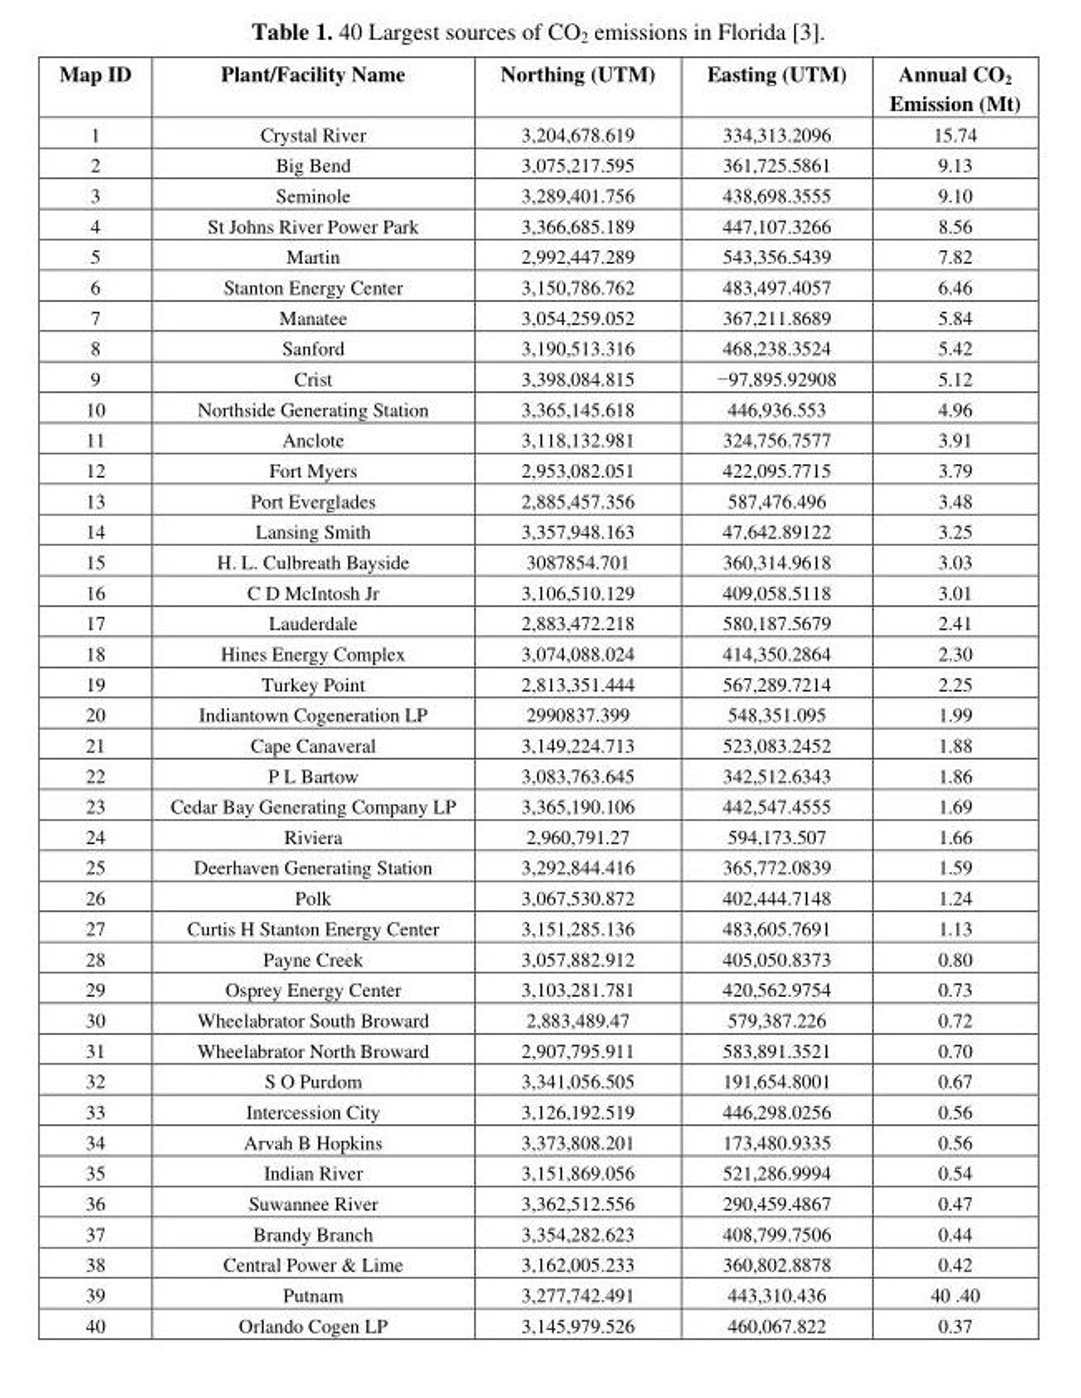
<table><thead><tr><td>Map ID</td><td>Plant/Facility Name</td><td>Northing (UTM)</td><td>Easting (UTM)</td><td>Annual CO<sub>2</sub> Emission (Mt)</td></tr></thead><tbody><tr><td>1</td><td>Crystal River</td><td>3,204,678.619</td><td>334,313.2096</td><td>15.74</td></tr><tr><td>2</td><td>Big Bend</td><td>3,075,217.595</td><td>361,725.5861</td><td>9.13</td></tr><tr><td>3</td><td>Seminole</td><td>3,289,401.756</td><td>438,698.3555</td><td>9.10</td></tr><tr><td>4</td><td>St Johns River Power Park</td><td>3,366,685.189</td><td>447,107.3266</td><td>8.56</td></tr><tr><td>5</td><td>Martin</td><td>2,992,447.289</td><td>543,356.5439</td><td>7.82</td></tr><tr><td>6</td><td>Stanton Energy Center</td><td>3,150,786.762</td><td>483,497.4057</td><td>6.46</td></tr><tr><td>7</td><td>Manatee</td><td>3,054,259.052</td><td>367,211.8689</td><td>5.84</td></tr><tr><td>8</td><td>Sanford</td><td>3,190,513.316</td><td>468,238.3524</td><td>5.42</td></tr><tr><td>9</td><td>Crist</td><td>3,398,084.815</td><td>−97,895.92908</td><td>5.12</td></tr><tr><td>10</td><td>Northside Generating Station</td><td>3,365,145.618</td><td>446,936.553</td><td>4.96</td></tr><tr><td>11</td><td>Anclote</td><td>3,118,132.981</td><td>324,756.7577</td><td>3.91</td></tr><tr><td>12</td><td>Fort Myers</td><td>2,953,082.051</td><td>422,095.7715</td><td>3.79</td></tr><tr><td>13</td><td>Port Everglades</td><td>2,885,457.356</td><td>587,476.496</td><td>3.48</td></tr><tr><td>14</td><td>Lansing Smith</td><td>3,357,948.163</td><td>47,642.89122</td><td>3.25</td></tr><tr><td>15</td><td>H. L. Culbreath Bayside</td><td>3087854.701</td><td>360,314.9618</td><td>3.03</td></tr><tr><td>16</td><td>C D McIntosh Jr</td><td>3,106,510.129</td><td>409,058.5118</td><td>3.01</td></tr><tr><td>17</td><td>Lauderdale</td><td>2,883,472.218</td><td>580,187.5679</td><td>2.41</td></tr><tr><td>18</td><td>Hines Energy Complex</td><td>3,074,088.024</td><td>414,350.2864</td><td>2.30</td></tr><tr><td>19</td><td>Turkey Point</td><td>2,813,351.444</td><td>567,289.7214</td><td>2.25</td></tr><tr><td>20</td><td>Indiantown Cogeneration LP</td><td>2990837.399</td><td>548,351.095</td><td>1.99</td></tr><tr><td>21</td><td>Cape Canaveral</td><td>3,149,224.713</td><td>523,083.2452</td><td>1.88</td></tr><tr><td>22</td><td>P L Bartow</td><td>3,083,763.645</td><td>342,512.6343</td><td>1.86</td></tr><tr><td>23</td><td>Cedar Bay Generating Company LP</td><td>3,365,190.106</td><td>442,547.4555</td><td>1.69</td></tr><tr><td>24</td><td>Riviera</td><td>2,960,791.27</td><td>594,173.507</td><td>1.66</td></tr><tr><td>25</td><td>Deerhaven Generating Station</td><td>3,292,844.416</td><td>365,772.0839</td><td>1.59</td></tr><tr><td>26</td><td>Polk</td><td>3,067,530.872</td><td>402,444.7148</td><td>1.24</td></tr><tr><td>27</td><td>Curtis H Stanton Energy Center</td><td>3,151,285.136</td><td>483,605.7691</td><td>1.13</td></tr><tr><td>28</td><td>Payne Creek</td><td>3,057,882.912</td><td>405,050.8373</td><td>0.80</td></tr><tr><td>29</td><td>Osprey Energy Center</td><td>3,103,281.781</td><td>420,562.9754</td><td>0.73</td></tr><tr><td>30</td><td>Wheelabrator South Broward</td><td>2,883,489.47</td><td>579,387.226</td><td>0.72</td></tr><tr><td>31</td><td>Wheelabrator North Broward</td><td>2,907,795.911</td><td>583,891.3521</td><td>0.70</td></tr><tr><td>32</td><td>S O Purdom</td><td>3,341,056.505</td><td>191,654.8001</td><td>0.67</td></tr><tr><td>33</td><td>Intercession City</td><td>3,126,192.519</td><td>446,298.0256</td><td>0.56</td></tr><tr><td>34</td><td>Arvah B Hopkins</td><td>3,373,808.201</td><td>173,480.9335</td><td>0.56</td></tr><tr><td>35</td><td>Indian River</td><td>3,151,869.056</td><td>521,286.9994</td><td>0.54</td></tr><tr><td>36</td><td>Suwannee River</td><td>3,362,512.556</td><td>290,459.4867</td><td>0.47</td></tr><tr><td>37</td><td>Brandy Branch</td><td>3,354,282.623</td><td>408,799.7506</td><td>0.44</td></tr><tr><td>38</td><td>Central Power &amp; Lime</td><td>3,162,005.233</td><td>360,802.8878</td><td>0.42</td></tr><tr><td>39</td><td>Putnam</td><td>3,277,742.491</td><td>443,310.436</td><td>40 .40</td></tr><tr><td>40</td><td>Orlando Cogen LP</td><td>3,145,979.526</td><td>460,067.822</td><td>0.37</td></tr></tbody></table>